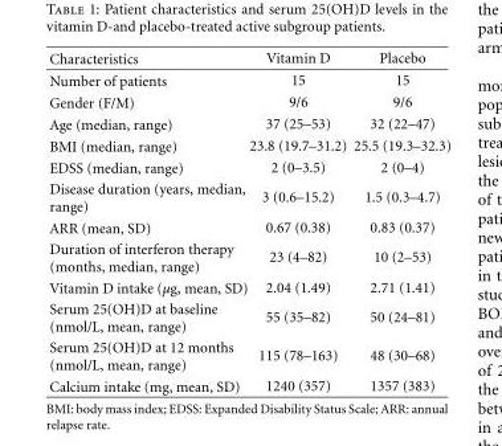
<table><thead><tr><td>Characteristics</td><td>Vitamin D</td><td>Placebo</td></tr></thead><tbody><tr><td>Number of patients</td><td>15</td><td>15</td></tr><tr><td>Gender (F/M)</td><td>9/6</td><td>9/6</td></tr><tr><td>Age (median, range)</td><td>37 (25–53)</td><td>32 (22–47)</td></tr><tr><td>BMI (median, range)</td><td>23.8 (19.7–31.2)</td><td>25.5 (19.3–32.3)</td></tr><tr><td>EDSS (median, range)</td><td>2 (0–3.5)</td><td>2 (0–4)</td></tr><tr><td>Disease duration (years, median, range)</td><td>3 (0.6–15.2)</td><td>1.5 (0.3–4.7)</td></tr><tr><td>ARR (mean, SD)</td><td>0.67 (0.38)</td><td>0.83 (0.37)</td></tr><tr><td>Duration of interferon therapy (months, median, range)</td><td>23 (4–82)</td><td>10 (2–53)</td></tr><tr><td>Vitamin D intake (μg, mean, SD)</td><td>2.04 (1.49)</td><td>2.71 (1.41)</td></tr><tr><td>Serum 25(OH)D at baseline (nmol/L, mean, range)</td><td>55 (35–82)</td><td>50 (24–81)</td></tr><tr><td>Serum 25(OH)D at 12 months (nmol/L, mean, range)</td><td>115 (78–163)</td><td>48 (30–68)</td></tr><tr><td>Calcium intake (mg, mean, SD)</td><td>1240 (357)</td><td>1357 (383)</td></tr></tbody></table>